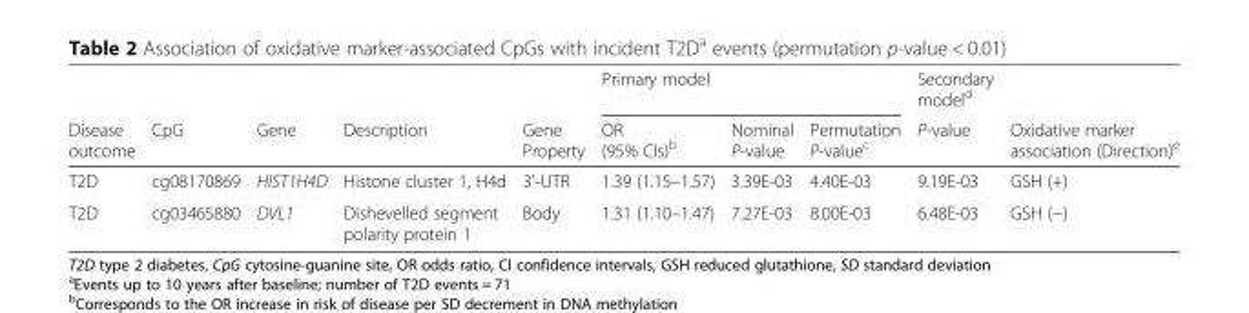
<table><thead><tr><td rowspan="2">Disease outcome</td><td rowspan="2">CpG</td><td rowspan="2">Gene</td><td rowspan="2">Description</td><td rowspan="2">Gene Property</td><td colspan="3">Primary model</td><td rowspan="2">Secondary model<sup>d</sup> P-value</td><td rowspan="2">Oxidative marker association (Direction)<sup>e</sup></td></tr><tr><td>OR (95% CIs)<sup>b</sup></td><td>Nominal P-value</td><td>Permutation P-value<sup>c</sup></td></tr></thead><tbody><tr><td>T2D</td><td>cg08170869</td><td>HIST1H4D</td><td>Histone cluster 1, H4d</td><td>3&#x27;-UTR</td><td>1.39 (1.15–1.57)</td><td>3.39E-03</td><td>4.40E-03</td><td>9.19E-03</td><td>GSH (+)</td></tr><tr><td>T2D</td><td>cg03465880</td><td>DVL1</td><td>Dishevelled segment polarity protein 1</td><td>Body</td><td>1.31 (1.10–1.47)</td><td>7.27E-03</td><td>8.00E-03</td><td>6.48E-03</td><td>GSH (−)</td></tr></tbody></table>